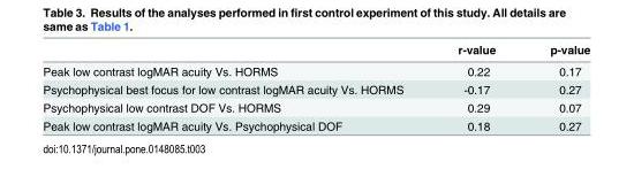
<table><thead><tr><td></td><td>r-value</td><td>p-value</td></tr></thead><tbody><tr><td>Peak low contrast logMAR acuity Vs. HORMS</td><td>0.22</td><td>0.17</td></tr><tr><td>Psychophysical best focus for low contrast logMAR acuity Vs. HORMS</td><td>-0.17</td><td>0.27</td></tr><tr><td>Psychophysical low contrast DOF Vs. HORMS</td><td>0.29</td><td>0.07</td></tr><tr><td>Peak low contrast logMAR acuity Vs. Psychophysical DOF</td><td>0.18</td><td>0.27</td></tr></tbody></table>